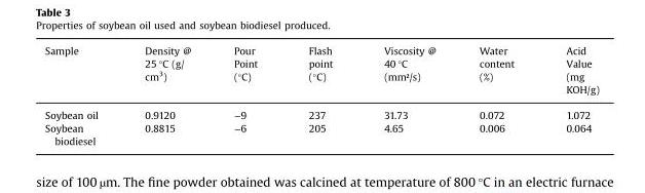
<table><thead><tr><td>Sample</td><td>Density @ 25 °C (g/ cm<sup>3</sup>)</td><td>Pour Point (°C)</td><td>Flash point (°C)</td><td>Viscosity @ 40 °C (mm²/s)</td><td>Water content (%)</td><td>Acid Value (mg KOH/g)</td></tr></thead><tbody><tr><td>Soybean oil</td><td>0.9120</td><td>−9</td><td>237</td><td>31.73</td><td>0.072</td><td>1.072</td></tr><tr><td>Soybean biodiesel</td><td>0.8815</td><td>−6</td><td>205</td><td>4.65</td><td>0.006</td><td>0.064</td></tr></tbody></table>